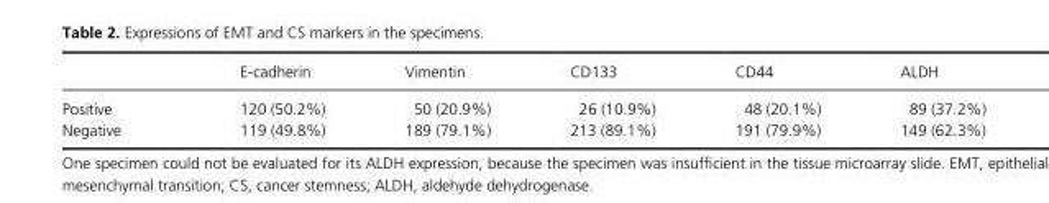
<table><thead><tr><td></td><td>E- cadherin</td><td>Vimentin</td><td>CD133</td><td>CD44</td><td>ALDH</td></tr></thead><tbody><tr><td>Positive</td><td>120 (50.2%)</td><td>50 (20.9%)</td><td>26 (10.9%)</td><td>48 (20.1%)</td><td>89 (37.2%)</td></tr><tr><td>Negative</td><td>119 (49.8%)</td><td>189 (79.1%)</td><td>213 (89.1%)</td><td>191 (79.9%)</td><td>149 (62.3%)</td></tr></tbody></table>